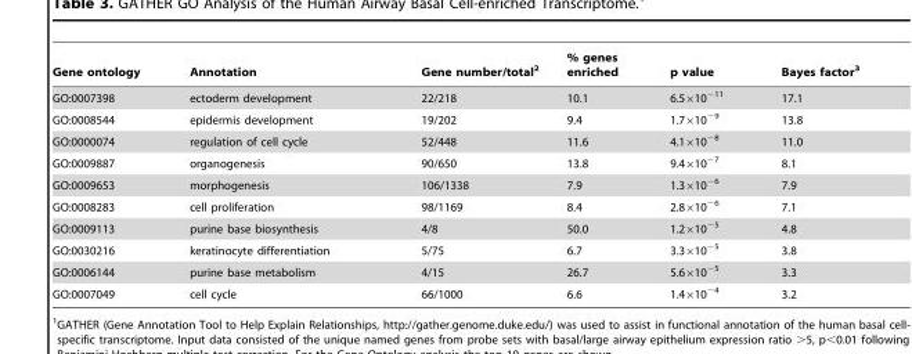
<table><thead><tr><td>Gene ontology</td><td>Annotation</td><td>Gene number/total<sup>2</sup></td><td>% genes enriched</td><td>p value</td><td>Bayes factor<sup>3</sup></td></tr></thead><tbody><tr><td>GO:0007398</td><td>ectoderm development</td><td>22/218</td><td>10.1</td><td>6.5×10<sup>−11</sup></td><td>17.1</td></tr><tr><td>GO:0008544</td><td>epidermis development</td><td>19/202</td><td>9.4</td><td>1.7×10<sup>−9</sup></td><td>13.8</td></tr><tr><td>GO:0000074</td><td>regulation of cell cycle</td><td>52/448</td><td>11.6</td><td>4.1×10<sup>−8</sup></td><td>11.0</td></tr><tr><td>GO:0009887</td><td>organogenesis</td><td>90/650</td><td>13.8</td><td>9.4×10<sup>−7</sup></td><td>8.1</td></tr><tr><td>GO:0009653</td><td>morphogenesis</td><td>106/1338</td><td>7.9</td><td>1.3×10<sup>−6</sup></td><td>7.9</td></tr><tr><td>GO:0008283</td><td>cell proliferation</td><td>98/1169</td><td>8.4</td><td>2.8×10<sup>−6</sup></td><td>7.1</td></tr><tr><td>GO:0009113</td><td>purine base biosynthesis</td><td>4/8</td><td>50.0</td><td>1.2×10<sup>−5</sup></td><td>4.8</td></tr><tr><td>GO:0030216</td><td>keratinocyte differentiation</td><td>5/75</td><td>6.7</td><td>3.3×10<sup>−5</sup></td><td>3.8</td></tr><tr><td>GO:0006144</td><td>purine base metabolism</td><td>4/15</td><td>26.7</td><td>5.6×10<sup>−5</sup></td><td>3.3</td></tr><tr><td>GO:0007049</td><td>cell cycle</td><td>66/1000</td><td>6.6</td><td>1.4×10<sup>−4</sup></td><td>3.2</td></tr></tbody></table>